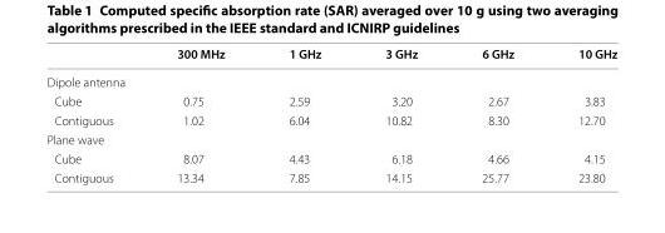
<table><thead><tr><td></td><td>300 MHz</td><td>1 GHz</td><td>3 GHz</td><td>6 GHz</td><td>10 GHz</td></tr></thead><tbody><tr><td colspan="6">Dipole antenna</td></tr><tr><td>Cube</td><td>0.75</td><td>2.59</td><td>3.20</td><td>2.67</td><td>3.83</td></tr><tr><td>Contiguous</td><td>1.02</td><td>6.04</td><td>10.82</td><td>8.30</td><td>12.70</td></tr><tr><td colspan="6">Plane wave</td></tr><tr><td>Cube</td><td>8.07</td><td>4.43</td><td>6.18</td><td>4.66</td><td>4.15</td></tr><tr><td>Contiguous</td><td>13.34</td><td>7.85</td><td>14.15</td><td>25.77</td><td>23.80</td></tr></tbody></table>